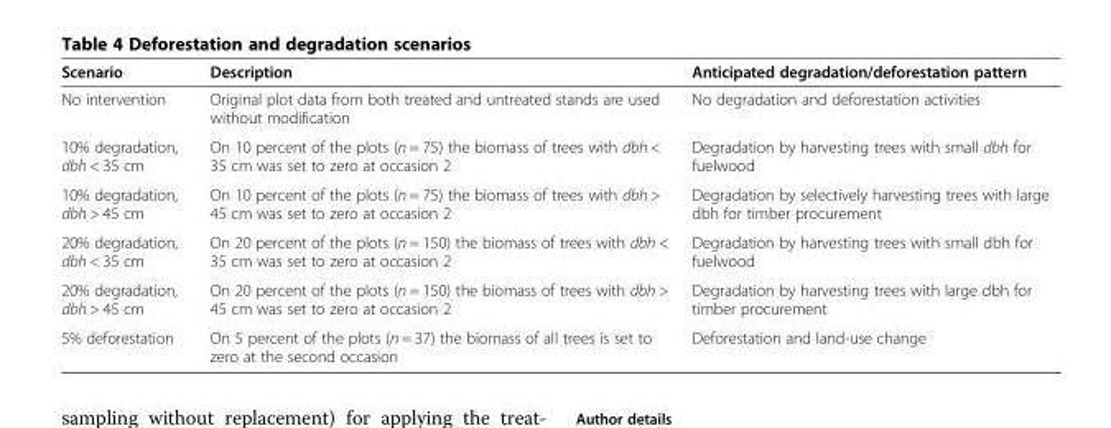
<table><thead><tr><td>Scenario</td><td>Description</td><td>Anticipated degradation/deforestation pattern</td></tr></thead><tbody><tr><td>No intervention</td><td>Original plot data from both treated and untreated stands are used without modification</td><td>No degradation and deforestation activities</td></tr><tr><td>10% degradation, dbh &lt; 35 cm</td><td>On 10 percent of the plots (n = 75) the biomass of trees with dbh &lt; 35 cm was set to zero at occasion 2</td><td>Degradation by harvesting trees with small dbh for fuelwood</td></tr><tr><td>10% degradation, dbh &gt; 45 cm</td><td>On 10 percent of the plots (n = 75) the biomass of trees with dbh &gt; 45 cm was set to zero at occasion 2</td><td>Degradation by selectively harvesting trees with large dbh for timber procurement</td></tr><tr><td>20% degradation, dbh &lt; 35 cm</td><td>On 20 percent of the plots (n = 150) the biomass of trees with dbh &lt; 35 cm was set to zero at occasion 2</td><td>Degradation by harvesting trees with small dbh for fuelwood</td></tr><tr><td>20% degradation, dbh &gt; 45 cm</td><td>On 20 percent of the plots (n = 150) the biomass of trees with dbh &gt; 45 cm was set to zero at occasion 2</td><td>Degradation by harvesting trees with large dbh for timber procurement</td></tr><tr><td>5% deforestation</td><td>On 5 percent of the plots (n = 37) the biomass of all trees is set to zero at the second occasion</td><td>Deforestation and land-use change</td></tr></tbody></table>